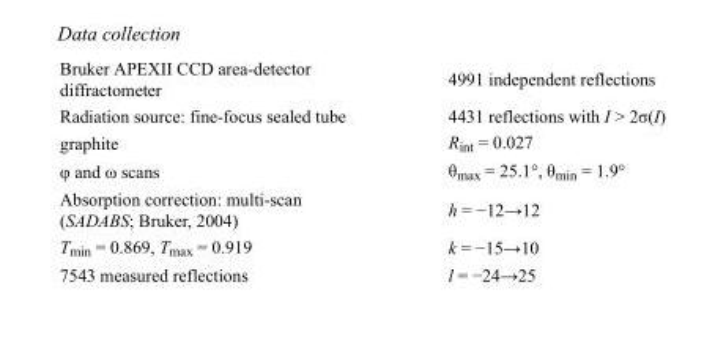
<table><tbody><tr><td>Bruker APEXII CCD area-detector diffractometer</td><td>4991 independent reflections</td></tr><tr><td>Radiation source: fine-focus sealed tube</td><td>4431 reflections with I &gt; 2σ(I)</td></tr><tr><td>graphite</td><td>R<sub>int</sub> = 0.027</td></tr><tr><td>φ and ω scans</td><td>θ<sub>max</sub> = 25.1°, θ<sub>min</sub> = 1.9°</td></tr><tr><td>Absorption correction: multi-scan (SADABS; Bruker, 2004)</td><td>h = −12→12</td></tr><tr><td>T<sub>min</sub> = 0.869, T<sub>max</sub> = 0.919</td><td>k = −15→10</td></tr><tr><td>7543 measured reflections</td><td>l = −24→25</td></tr></tbody></table>